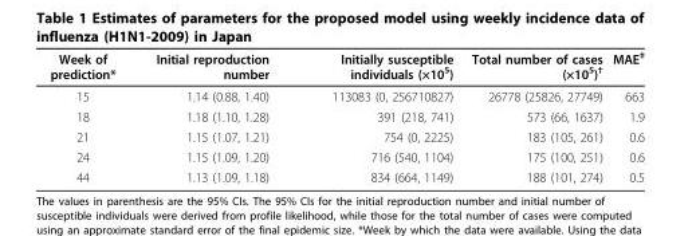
<table><thead><tr><td>Week of prediction*</td><td>Initial reproduction number</td><td>Initially susceptible individuals (×10<sup>5</sup>)</td><td>Total number of cases (×10<sup>5</sup>)<sup>†</sup></td><td>MAE<sup>‡</sup></td></tr></thead><tbody><tr><td>15</td><td>1.14 (0.88, 1.40)</td><td>113083 (0, 256710827)</td><td>26778 (25826, 27749)</td><td>663</td></tr><tr><td>18</td><td>1.18 (1.10, 1.28)</td><td>391 (218, 741)</td><td>573 (66, 1637)</td><td>1.9</td></tr><tr><td>21</td><td>1.15 (1.07, 1.21)</td><td>754 (0, 2225)</td><td>183 (105, 261)</td><td>0.6</td></tr><tr><td>24</td><td>1.15 (1.09, 1.20)</td><td>716 (540, 1104)</td><td>175 (100, 251)</td><td>0.6</td></tr><tr><td>44</td><td>1.13 (1.09, 1.18)</td><td>834 (664, 1149)</td><td>188 (101, 274)</td><td>0.5</td></tr></tbody></table>